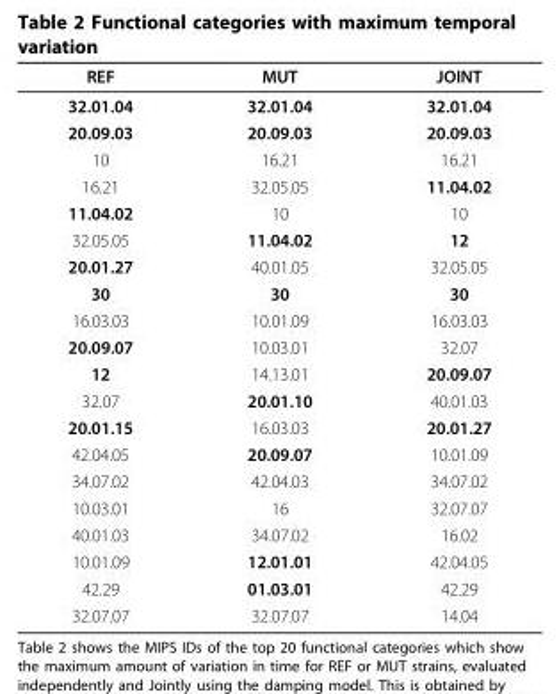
<table><thead><tr><td>REF</td><td>MUT</td><td>JOINT</td></tr></thead><tbody><tr><td>32.01.04</td><td>32.01.04</td><td>32.01.04</td></tr><tr><td>20.09.03</td><td>20.09.03</td><td>20.09.03</td></tr><tr><td>10</td><td>16.21</td><td>16.21</td></tr><tr><td>16.21</td><td>32.05.05</td><td>11.04.02</td></tr><tr><td>11.04.02</td><td>10</td><td>10</td></tr><tr><td>32.05.05</td><td>11.04.02</td><td>12</td></tr><tr><td>20.01.27</td><td>40.01.05</td><td>32.05.05</td></tr><tr><td>30</td><td>30</td><td>30</td></tr><tr><td>16.03.03</td><td>10.01.09</td><td>16.03.03</td></tr><tr><td>20.09.07</td><td>10.03.01</td><td>32.07</td></tr><tr><td>12</td><td>14.13.01</td><td>20.09.07</td></tr><tr><td>32.07</td><td>20.01.10</td><td>40.01.03</td></tr><tr><td>20.01.15</td><td>16.03.03</td><td>20.01.27</td></tr><tr><td>42.04.05</td><td>20.09.07</td><td>10.01.09</td></tr><tr><td>34.07.02</td><td>42.04.03</td><td>34.07.02</td></tr><tr><td>10.03.01</td><td>16</td><td>32.07.07</td></tr><tr><td>40.01.03</td><td>34.07.02</td><td>16.02</td></tr><tr><td>10.01.09</td><td>12.01.01</td><td>42.04.05</td></tr><tr><td>42.29</td><td>01.03.01</td><td>42.29</td></tr><tr><td>32.07.07</td><td>32.07.07</td><td>14.04</td></tr></tbody></table>